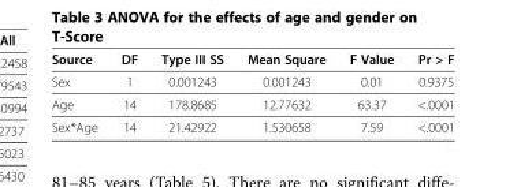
<table><thead><tr><td>Source</td><td>DF</td><td>Type III SS</td><td>Mean Square</td><td>F Value</td><td>Pr &gt; F</td></tr></thead><tbody><tr><td>Sex</td><td>1</td><td>0.001243</td><td>0.001243</td><td>0.01</td><td>0.9375</td></tr><tr><td>Age</td><td>14</td><td>178.8685</td><td>12.77632</td><td>63.37</td><td>&lt;.0001</td></tr><tr><td>Sex*Age</td><td>14</td><td>21.42922</td><td>1.530658</td><td>7.59</td><td>&lt;.0001</td></tr></tbody></table>